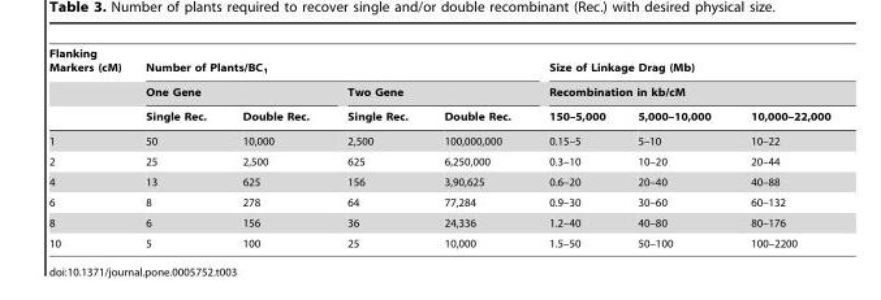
<table><thead><tr><td rowspan="3">Flanking Markers (cM)</td><td colspan="4">Number of Plants/BC<sub>1</sub></td><td rowspan="2" colspan="3">Size of Linkage Drag (Mb) Recombination in kb/cM</td></tr><tr><td colspan="2">One Gene</td><td colspan="2">Two Gene</td></tr><tr><td>Single Rec.</td><td>Double Rec.</td><td>Single Rec.</td><td>Double Rec.</td><td>150–5,000</td><td>5,000–10,000</td><td>10,000–22,000</td></tr></thead><tbody><tr><td>1</td><td>50</td><td>10,000</td><td>2,500</td><td>100,000,000</td><td>0.15–5</td><td>5–10</td><td>10–22</td></tr><tr><td>2</td><td>25</td><td>2,500</td><td>625</td><td>6,250,000</td><td>0.3–10</td><td>10–20</td><td>20–44</td></tr><tr><td>4</td><td>13</td><td>625</td><td>156</td><td>3,90,625</td><td>0.6–20</td><td>20–40</td><td>40–88</td></tr><tr><td>6</td><td>8</td><td>278</td><td>64</td><td>77,284</td><td>0.9–30</td><td>30–60</td><td>60–132</td></tr><tr><td>8</td><td>6</td><td>156</td><td>36</td><td>24,336</td><td>1.2–40</td><td>40–80</td><td>80–176</td></tr><tr><td>10</td><td>5</td><td>100</td><td>25</td><td>10,000</td><td>1.5–50</td><td>50–100</td><td>100–2200</td></tr></tbody></table>